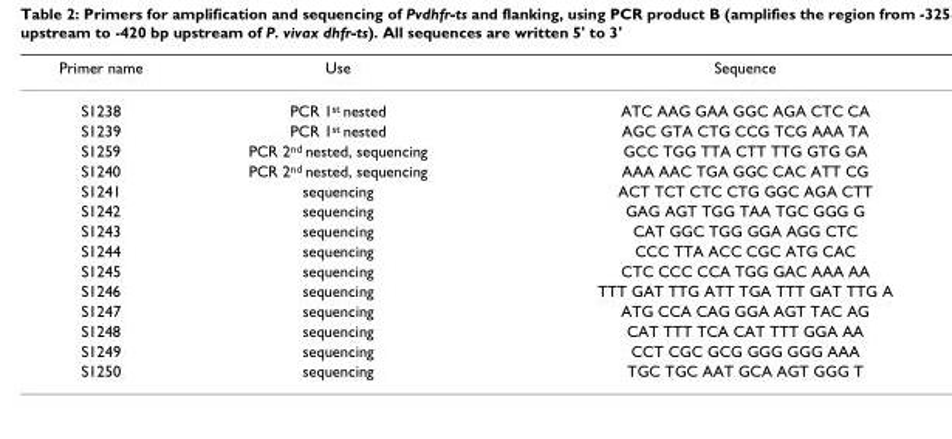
<table><thead><tr><td>Primer name</td><td>Use</td><td>Sequence</td></tr></thead><tbody><tr><td>S1238</td><td>PCR 1<sup>st</sup> nested</td><td>ATC AAG GAA GGC AGA CTC CA</td></tr><tr><td>S1239</td><td>PCR 1<sup>st</sup> nested</td><td>AGC GTA CTG CCG TCG AAA TA</td></tr><tr><td>S1259</td><td>PCR 2<sup>nd</sup> nested, sequencing</td><td>GCC TGG TTA CTT TTG GTG GA</td></tr><tr><td>S1240</td><td>PCR 2<sup>nd</sup> nested, sequencing</td><td>AAA AAC TGA GGC CAC ATT CG</td></tr><tr><td>S1241</td><td>sequencing</td><td>ACT TCT CTC CTG GGC AGA CTT</td></tr><tr><td>S1242</td><td>sequencing</td><td>GAG AGT TGG TAA TGC GGG G</td></tr><tr><td>S1243</td><td>sequencing</td><td>CAT GGC TGG GGA AGG CTC</td></tr><tr><td>S1244</td><td>sequencing</td><td>CCC TTA ACC CGC ATG CAC</td></tr><tr><td>S1245</td><td>sequencing</td><td>CTC CCC CCA TGG GAC AAA AA</td></tr><tr><td>S1246</td><td>sequencing</td><td>TTT GAT TTG ATT TGA TTT GAT TTG A</td></tr><tr><td>S1247</td><td>sequencing</td><td>ATG CCA CAG GGA AGT TAC AG</td></tr><tr><td>S1248</td><td>sequencing</td><td>CAT TTT TCA CAT TTT GGA AA</td></tr><tr><td>S1249</td><td>sequencing</td><td>CCT CGC GCG GGG GGG AAA</td></tr><tr><td>S1250</td><td>sequencing</td><td>TGC TGC AAT GCA AGT GGG T</td></tr></tbody></table>